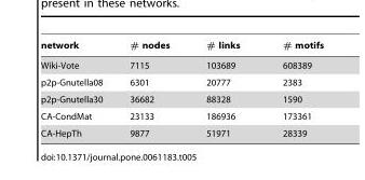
<table><thead><tr><td>network</td><td># nodes</td><td># links</td><td># motifs</td></tr></thead><tbody><tr><td>Wiki-Vote</td><td>7115</td><td>103689</td><td>608389</td></tr><tr><td>p2p-Gnutella08</td><td>6301</td><td>20777</td><td>2383</td></tr><tr><td>p2p-Gnutella30</td><td>36682</td><td>88328</td><td>1590</td></tr><tr><td>CA-CondMat</td><td>23133</td><td>186936</td><td>173361</td></tr><tr><td>CA-HepTh</td><td>9877</td><td>51971</td><td>28339</td></tr></tbody></table>